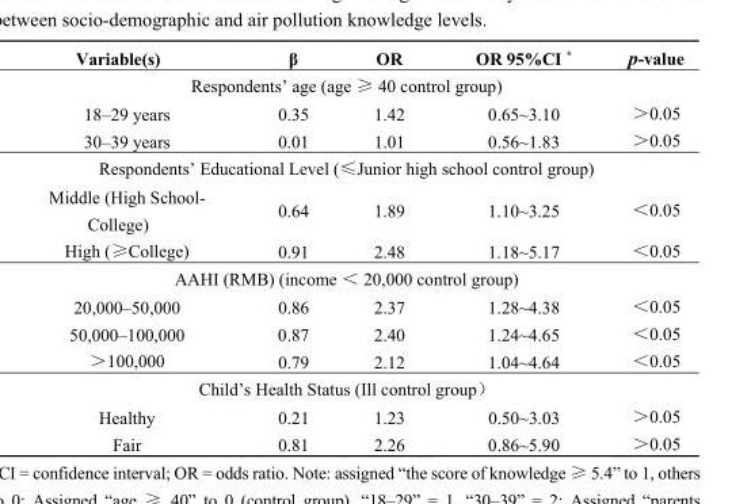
<table><thead><tr><td>Variable(s)</td><td>β</td><td>OR</td><td>OR 95%CI *</td><td>p-value</td></tr></thead><tbody><tr><td colspan="5">Respondents’ age (age ≥ 40 control group)</td></tr><tr><td>18–29 years</td><td>0.35</td><td>1.42</td><td>0.65~3.10</td><td>＞0.05</td></tr><tr><td>30–39 years</td><td>0.01</td><td>1.01</td><td>0.56~1.83</td><td>＞0.05</td></tr><tr><td colspan="5">Respondents’ Educational Level (≤Junior high school control group)</td></tr><tr><td>Middle (High School- College)</td><td>0.64</td><td>1.89</td><td>1.10~3.25</td><td>＜0.05</td></tr><tr><td>High (≥College)</td><td>0.91</td><td>2.48</td><td>1.18~5.17</td><td>＜0.05</td></tr><tr><td colspan="5">AAHI (RMB) (income ＜ 20,000 control group)</td></tr><tr><td>20,000–50,000</td><td>0.86</td><td>2.37</td><td>1.28~4.38</td><td>＜0.05</td></tr><tr><td>50,000–100,000</td><td>0.87</td><td>2.40</td><td>1.24~4.65</td><td>＜0.05</td></tr><tr><td>＞100,000</td><td>0.79</td><td>2.12</td><td>1.04~4.64</td><td>＜0.05</td></tr><tr><td colspan="5">Child’s Health Status (Ill control group）</td></tr><tr><td>Healthy</td><td>0.21</td><td>1.23</td><td>0.50~3.03</td><td>＞0.05</td></tr><tr><td>Fair</td><td>0.81</td><td>2.26</td><td>0.86~5.90</td><td>＞0.05</td></tr></tbody></table>